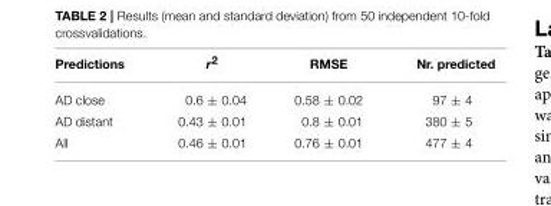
<table><thead><tr><td>Predictions</td><td>r<sup>2</sup></td><td>RMSE</td><td>Nr. predicted</td></tr></thead><tbody><tr><td>AD close</td><td>0.6 ± 0.04</td><td>0.58 ± 0.02</td><td>97 ± 4</td></tr><tr><td>AD distant</td><td>0.43 ± 0.01</td><td>0.8 ± 0.01</td><td>380 ± 5</td></tr><tr><td>All</td><td>0.46 ± 0.01</td><td>0.76 ± 0.01</td><td>477 ± 4</td></tr></tbody></table>